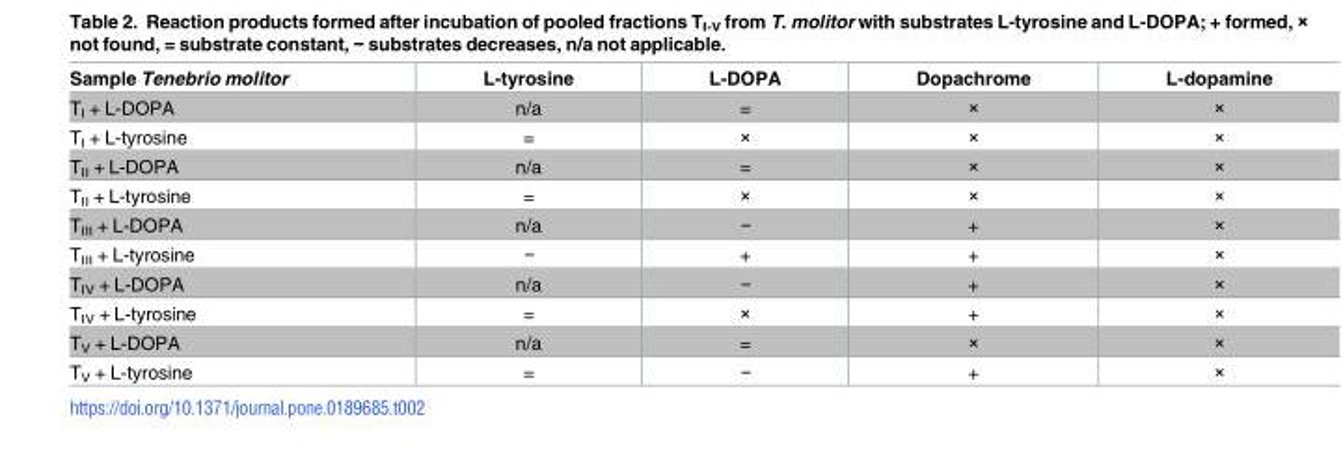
<table><thead><tr><td>Sample Tenebrio molitor</td><td>L-tyrosine</td><td>L-DOPA</td><td>Dopachrome</td><td>L-dopamine</td></tr></thead><tbody><tr><td>T<sub>I</sub> + L-DOPA</td><td>n/a</td><td>=</td><td>×</td><td>×</td></tr><tr><td>T<sub>I</sub> + L-tyrosine</td><td>=</td><td>×</td><td>×</td><td>×</td></tr><tr><td>T<sub>II</sub> + L-DOPA</td><td>n/a</td><td>=</td><td>×</td><td>×</td></tr><tr><td>T<sub>II</sub> + L-tyrosine</td><td>=</td><td>×</td><td>×</td><td>×</td></tr><tr><td>T<sub>III</sub> + L-DOPA</td><td>n/a</td><td>−</td><td>+</td><td>×</td></tr><tr><td>T<sub>III</sub> + L-tyrosine</td><td>−</td><td>+</td><td>+</td><td>×</td></tr><tr><td>T<sub>IV</sub> + L-DOPA</td><td>n/a</td><td>−</td><td>+</td><td>×</td></tr><tr><td>T<sub>IV</sub> + L-tyrosine</td><td>=</td><td>×</td><td>+</td><td>×</td></tr><tr><td>T<sub>V</sub> + L-DOPA</td><td>n/a</td><td>=</td><td>×</td><td>×</td></tr><tr><td>T<sub>V</sub> + L-tyrosine</td><td>=</td><td>−</td><td>+</td><td>×</td></tr></tbody></table>